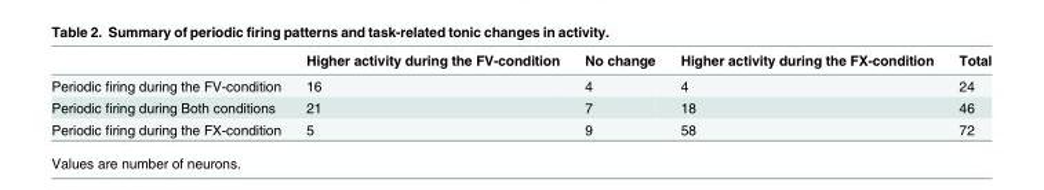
<table><thead><tr><td></td><td>Higher activity during the FV-condition</td><td>No change</td><td>Higher activity during the FX-condition</td><td>Total</td></tr></thead><tbody><tr><td>Periodic firing during the FV-condition</td><td>16</td><td>4</td><td>4</td><td>24</td></tr><tr><td>Periodic firing during Both conditions</td><td>21</td><td>7</td><td>18</td><td>46</td></tr><tr><td>Periodic firing during the FX-condition</td><td>5</td><td>9</td><td>58</td><td>72</td></tr></tbody></table>